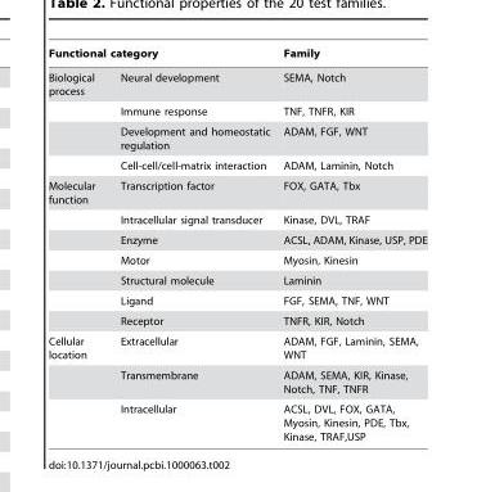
<table><thead><tr><td colspan="2">Functional category</td><td rowspan="2">Family SEMA, Notch</td></tr><tr><td>Biological process</td><td>Neural development</td></tr></thead><tbody><tr><td></td><td>Immune response</td><td>TNF, TNFR, KIR</td></tr><tr><td></td><td>Development and homeostatic regulation</td><td>ADAM, FGF, WNT</td></tr><tr><td></td><td>Cell-cell/cell-matrix interaction</td><td>ADAM, Laminin, Notch</td></tr><tr><td rowspan="7">Molecular function</td><td>Transcription factor</td><td>FOX, GATA, Tbx</td></tr><tr><td>Intracellular signal transducer</td><td>Kinase, DVL, TRAF</td></tr><tr><td>Enzyme</td><td>ACSL, ADAM, Kinase, USP, PDE</td></tr><tr><td>Motor</td><td>Myosin, Kinesin</td></tr><tr><td>Structural molecule</td><td>Laminin</td></tr><tr><td>Ligand</td><td>FGF, SEMA, TNF, WNT</td></tr><tr><td>Receptor</td><td>TNFR, KIR, Notch</td></tr><tr><td rowspan="3">Cellular location</td><td>Extracellular</td><td>ADAM, FGF, Laminin, SEMA, WNT</td></tr><tr><td>Transmembrane</td><td>ADAM, SEMA, KIR, Kinase, Notch, TNF, TNFR</td></tr><tr><td>Intracellular</td><td>ACSL, DVL, FOX, GATA, Myosin, Kinesin, PDE, Tbx, Kinase, TRAF,USP</td></tr></tbody></table>